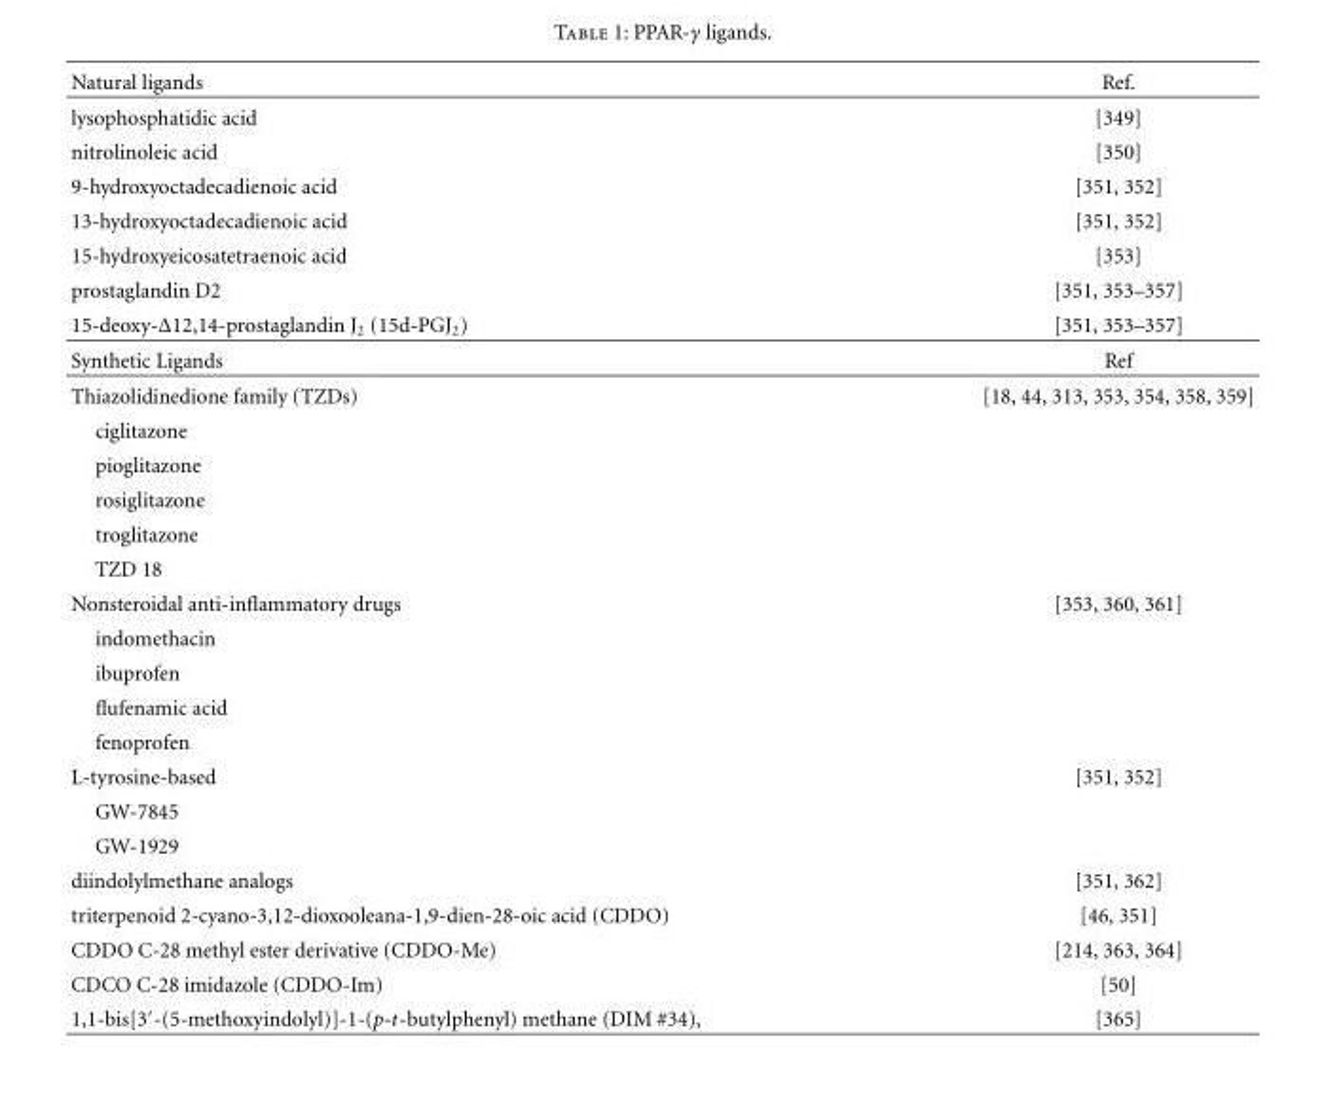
<table><thead><tr><td>Natural ligands</td><td>Ref.</td></tr></thead><tbody><tr><td>lysophosphatidic acid</td><td>[349]</td></tr><tr><td>nitrolinoleic acid</td><td>[350]</td></tr><tr><td>9-hydroxyoctadecadienoic acid</td><td>[351, 352]</td></tr><tr><td>13-hydroxyoctadecadienoic acid</td><td>[351, 352]</td></tr><tr><td>15-hydroxyeicosatetraenoic acid</td><td>[353]</td></tr><tr><td>prostaglandin D2</td><td>[351, 353–357]</td></tr><tr><td>15-deoxy-Δ12,14-prostaglandin J<sub>2</sub> (15d-PGJ<sub>2</sub>)</td><td>[351, 353–357]</td></tr><tr><td>Synthetic Ligands</td><td>Ref</td></tr><tr><td>Thiazolidinedione family (TZDs)</td><td>[18, 44, 313, 353, 354, 358, 359]</td></tr><tr><td colspan="2">ciglitazone</td></tr><tr><td colspan="2">pioglitazone</td></tr><tr><td colspan="2">rosiglitazone</td></tr><tr><td colspan="2">troglitazone</td></tr><tr><td colspan="2">TZD 18</td></tr><tr><td>Nonsteroidal anti-inflammatory drugs</td><td>[353, 360, 361]</td></tr><tr><td colspan="2">indomethacin</td></tr><tr><td colspan="2">ibuprofen</td></tr><tr><td colspan="2">flufenamic acid</td></tr><tr><td colspan="2">fenoprofen</td></tr><tr><td>L-tyrosine-based</td><td>[351, 352]</td></tr><tr><td colspan="2">GW-7845</td></tr><tr><td colspan="2">GW-1929</td></tr><tr><td>diindolylmethane analogs</td><td>[351, 362]</td></tr><tr><td>triterpenoid 2-cyano-3,12-dioxooleana-1,9-dien-28-oic acid (CDDO)</td><td>[46, 351]</td></tr><tr><td>CDDO C-28 methyl ester derivative (CDDO-Me)</td><td>[214, 363, 364]</td></tr><tr><td>CDCO C-28 imidazole (CDDO-Im)</td><td>[50]</td></tr><tr><td>1,1-bis[3′-(5-methoxyindolyl)]-1-(p-t-butylphenyl) methane (DIM #34),</td><td>[365]</td></tr></tbody></table>